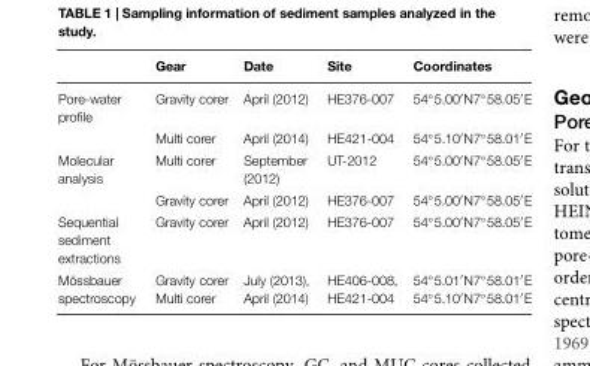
<table><thead><tr><td></td><td>Gear</td><td>Date</td><td>Site</td><td>Coordinates</td></tr></thead><tbody><tr><td rowspan="2">Pore-water profile</td><td>Gravity corer</td><td>April (2012)</td><td>HE376-007</td><td>54◦5.00′N7◦58.05′E</td></tr><tr><td>Multi corer</td><td>April (2014)</td><td>HE421-004</td><td>54◦5.10′N7◦58.01′E</td></tr><tr><td rowspan="2">Molecular analysis</td><td>Multi corer</td><td>September (2012)</td><td>UT-2012</td><td>54◦5.00′N7◦58.05′E</td></tr><tr><td>Gravity corer</td><td>April (2012)</td><td>HE376-007</td><td>54◦5.00′N7◦58.05′E</td></tr><tr><td>Sequential sediment extractions</td><td>Gravity corer</td><td>April (2012)</td><td>HE376-007</td><td>54◦5.00′N7◦58.05′E</td></tr><tr><td>Mössbauer spectroscopy</td><td>Gravity corer Multi corer</td><td>July (2013), April (2014)</td><td>HE406-008, HE421-004</td><td>54◦5.01′N7◦58.01′E 54◦5.10′N7◦58.01′E</td></tr></tbody></table>